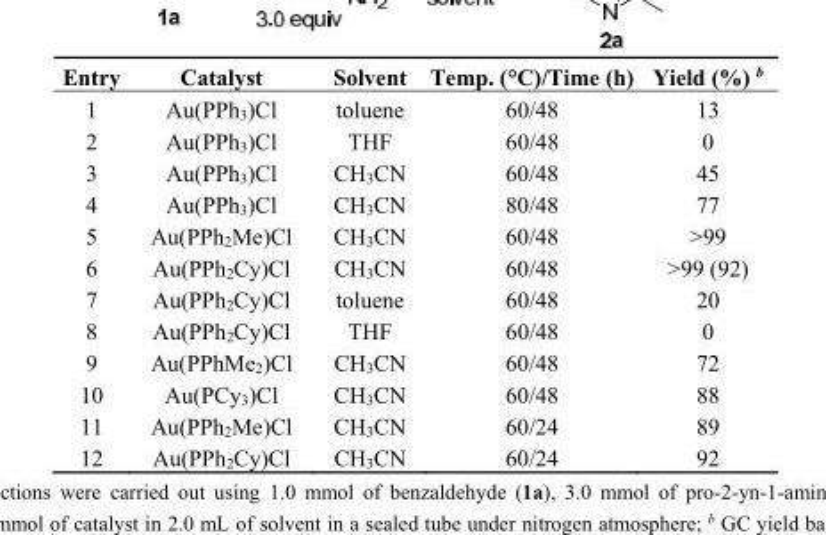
<table><thead><tr><td>Entry</td><td>Catalyst</td><td>Solvent</td><td>Temp. (°C)/Time (h)</td><td>Yield (%) <sup>b</sup></td></tr></thead><tbody><tr><td>1</td><td>Au(PPh<sub>3</sub>)Cl</td><td>toluene</td><td>60/48</td><td>13</td></tr><tr><td>2</td><td>Au(PPh<sub>3</sub>)Cl</td><td>THF</td><td>60/48</td><td>0</td></tr><tr><td>3</td><td>Au(PPh<sub>3</sub>)Cl</td><td>CH<sub>3</sub>CN</td><td>60/48</td><td>45</td></tr><tr><td>4</td><td>Au(PPh<sub>3</sub>)Cl</td><td>CH<sub>3</sub>CN</td><td>80/48</td><td>77</td></tr><tr><td>5</td><td>Au(PPh<sub>2</sub>Me)Cl</td><td>CH<sub>3</sub>CN</td><td>60/48</td><td>&gt;99</td></tr><tr><td>6</td><td>Au(PPh<sub>2</sub>Cy)Cl</td><td>CH<sub>3</sub>CN</td><td>60/48</td><td>&gt;99 (92)</td></tr><tr><td>7</td><td>Au(PPh<sub>2</sub>Cy)Cl</td><td>toluene</td><td>60/48</td><td>20</td></tr><tr><td>8</td><td>Au(PPh<sub>2</sub>Cy)Cl</td><td>THF</td><td>60/48</td><td>0</td></tr><tr><td>9</td><td>Au(PPhMe<sub>2</sub>)Cl</td><td>CH<sub>3</sub>CN</td><td>60/48</td><td>72</td></tr><tr><td>10</td><td>Au(PCy<sub>3</sub>)Cl</td><td>CH<sub>3</sub>CN</td><td>60/48</td><td>88</td></tr><tr><td>11</td><td>Au(PPh<sub>2</sub>Me)Cl</td><td>CH<sub>3</sub>CN</td><td>60/24</td><td>89</td></tr><tr><td>12</td><td>Au(PPh<sub>2</sub>Cy)Cl</td><td>CH<sub>3</sub>CN</td><td>60/24</td><td>92</td></tr></tbody></table>